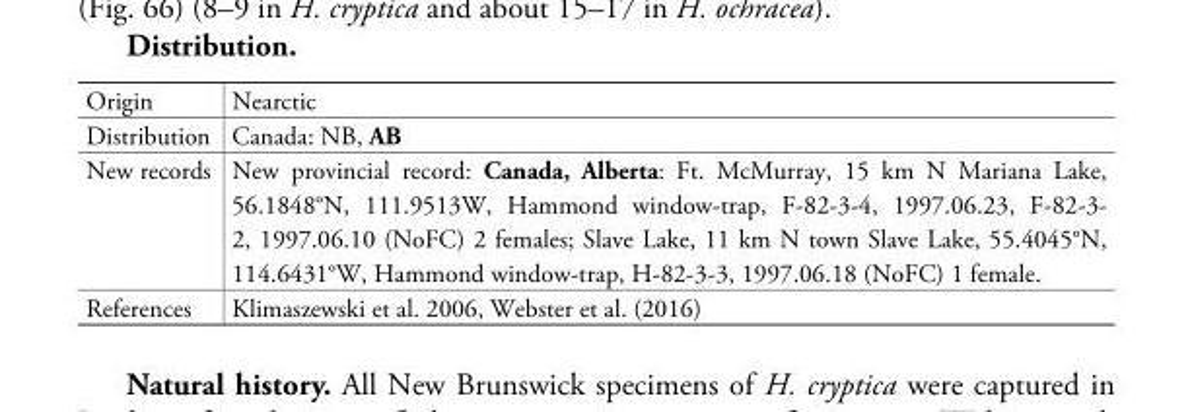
<table><tbody><tr><td>Origin</td><td>Nearctic</td></tr><tr><td>Distribution</td><td>Canada: NB, AB</td></tr><tr><td>New records</td><td>New provincial record: Canada, Alberta: Ft. McMurray, 15 km N Mariana Lake, 56.1848°N, 111.9513W, Hammond window-trap, F-82-3-4, 1997.06.23, F-82-3- 2, 1997.06.10 (NoFC) 2 females; Slave Lake, 11 km N town Slave Lake, 55.4045°N, 114.6431°W, Hammond window-trap, H-82-3-3, 1997.06.18 (NoFC) 1 female.</td></tr><tr><td>References</td><td>Klimaszewski et al. 2006, Webster et al. (2016)</td></tr></tbody></table>